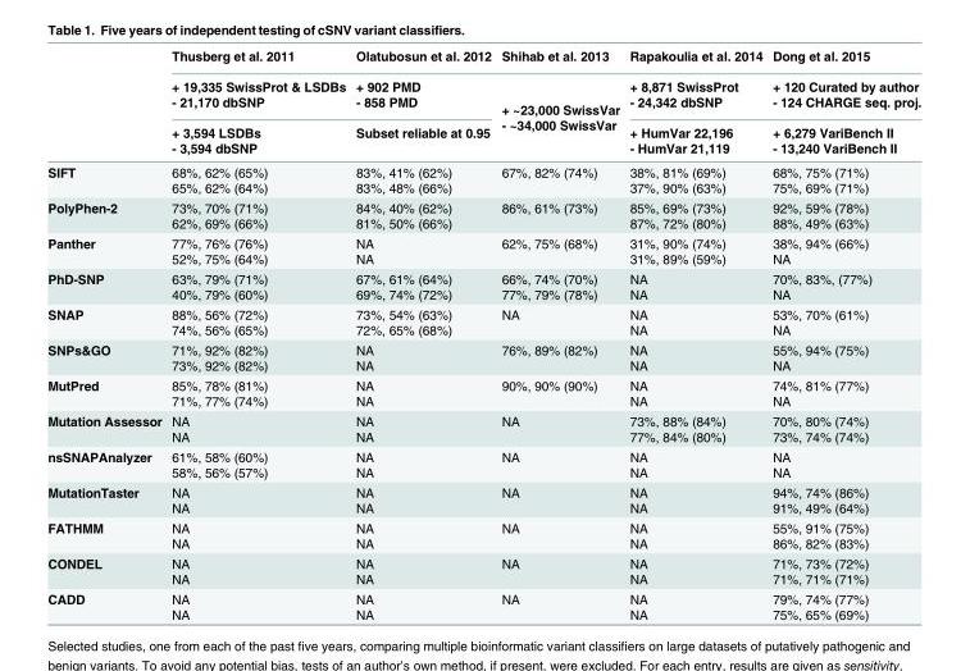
<table><thead><tr><td rowspan="3"></td><td rowspan="3">Thusberg et al. 2011 + 19,335 SwissProt &amp; LSDBs - 21,170 dbSNP + 3,594 LSDBs - 3,594 dbSNP</td><td rowspan="3">Olatubosun et al. 2012 + 902 PMD - 858 PMD Subset reliable at 0.95</td><td rowspan="3">Shihab et al. 2013 + ~23,000 SwissVar - ~34,000 SwissVar</td><td rowspan="3">Rapakoulia et al. 2014 + 8,871 SwissProt - 24,342 dbSNP + HumVar 22,196 - HumVar 21,119</td><td rowspan="3">Dong et al. 2015 + 120 Curated by author - 124 CHARGE seq. proj. + 6,279 VariBench II - 13,240 VariBench II</td></tr><tr></tr><tr></tr></thead><tbody><tr><td>SIFT</td><td>68%, 62% (65%) 65%, 62% (64%)</td><td>83%, 41% (62%) 83%, 48% (66%)</td><td>67%, 82% (74%)</td><td>38%, 81% (69%) 37%, 90% (63%)</td><td>68%, 75% (71%) 75%, 69% (71%)</td></tr><tr><td>PolyPhen-2</td><td>73%, 70% (71%) 62%, 69% (66%)</td><td>84%, 40% (62%) 81%, 50% (66%)</td><td>86%, 61% (73%)</td><td>85%, 69% (73%) 87%, 72% (80%)</td><td>92%, 59% (78%) 88%, 49% (63%)</td></tr><tr><td>Panther</td><td>77%, 76% (76%) 52%, 75% (64%)</td><td>NA NA</td><td>62%, 75% (68%)</td><td>31%, 90% (74%) 31%, 89% (59%)</td><td>38%, 94% (66%) NA</td></tr><tr><td>PhD-SNP</td><td>63%, 79% (71%) 40%, 79% (60%)</td><td>67%, 61% (64%) 69%, 74% (72%)</td><td>66%, 74% (70%) 77%, 79% (78%)</td><td>NA NA</td><td>70%, 83%, (77%) NA</td></tr><tr><td>SNAP</td><td>88%, 56% (72%) 74%, 56% (65%)</td><td>73%, 54% (63%) 72%, 65% (68%)</td><td>NA</td><td>NA NA</td><td>53%, 70% (61%) NA</td></tr><tr><td>SNPs&amp;GO</td><td>71%, 92% (82%) 73%, 92% (82%)</td><td>NA NA</td><td>76%, 89% (82%)</td><td>NA NA</td><td>55%, 94% (75%) NA</td></tr><tr><td>MutPred</td><td>85%, 78% (81%) 71%, 77% (74%)</td><td>NA NA</td><td>90%, 90% (90%)</td><td>NA NA</td><td>74%, 81% (77%) NA</td></tr><tr><td>Mutation Assessor</td><td>NA NA</td><td>NA NA</td><td>NA</td><td>73%, 88% (84%) 77%, 84% (80%)</td><td>70%, 80% (74%) 73%, 74% (74%)</td></tr><tr><td>nsSNAPAnalyzer</td><td>61%, 58% (60%) 58%, 56% (57%)</td><td>NA NA</td><td>NA</td><td>NA NA</td><td>NA NA</td></tr><tr><td>MutationTaster</td><td>NA NA</td><td>NA NA</td><td>NA</td><td>NA NA</td><td>94%, 74% (86%) 91%, 49% (64%)</td></tr><tr><td>FATHMM</td><td>NA NA</td><td>NA NA</td><td>NA</td><td>NA NA</td><td>55%, 91% (75%) 86%, 82% (83%)</td></tr><tr><td>CONDEL</td><td>NA NA</td><td>NA NA</td><td>NA</td><td>NA NA</td><td>71%, 73% (72%) 71%, 71% (71%)</td></tr><tr><td>CADD</td><td>NA NA</td><td>NA NA</td><td>NA</td><td>NA NA</td><td>79%, 74% (77%) 75%, 65% (69%)</td></tr></tbody></table>